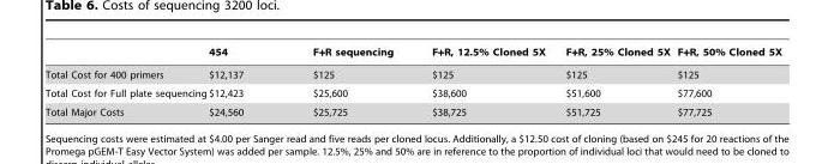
<table><thead><tr><td></td><td>454</td><td>F+R sequencing</td><td>F+R, 12.5% Cloned 5X</td><td>F+R, 25% Cloned 5X</td><td>F+R, 50% Cloned 5X</td></tr></thead><tbody><tr><td>Total Cost for 400 primers</td><td>$12,137</td><td>$125</td><td>$125</td><td>$125</td><td>$125</td></tr><tr><td>Total Cost for Full plate sequencing</td><td>$12,423</td><td>$25,600</td><td>$38,600</td><td>$51,600</td><td>$77,600</td></tr><tr><td>Total Major Costs</td><td>$24,560</td><td>$25,725</td><td>$38,725</td><td>$51,725</td><td>$77,725</td></tr></tbody></table>